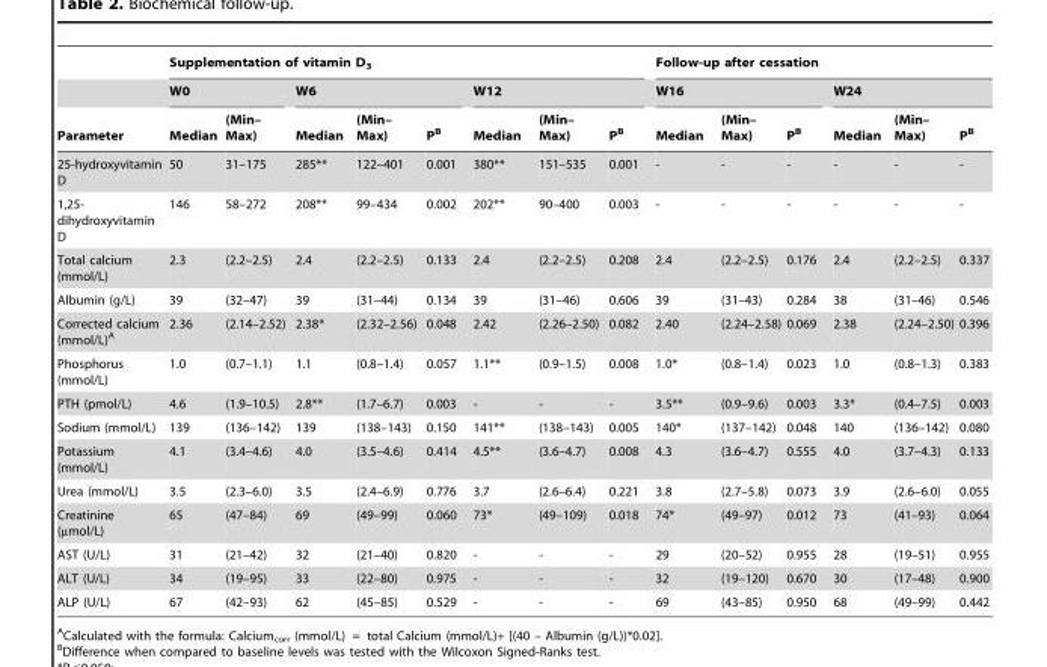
<table><thead><tr><td rowspan="3">Parameter</td><td colspan="8">Supplementation of vitamin D<sub>3</sub></td><td colspan="6">Follow-up after cessation</td></tr><tr><td colspan="2">W0</td><td colspan="3">W6</td><td colspan="3">W12</td><td colspan="3">W16</td><td colspan="3">W24</td></tr><tr><td>Median</td><td>(Min– Max)</td><td>Median</td><td>(Min– Max)</td><td>P<sup>B</sup></td><td>Median</td><td>(Min– Max)</td><td>P<sup>B</sup></td><td>Median</td><td>(Min– Max)</td><td>P<sup>B</sup></td><td>Median</td><td>(Min– Max)</td><td>P<sup>B</sup></td></tr></thead><tbody><tr><td>25-hydroxyvitamin D</td><td>50</td><td>31–175</td><td>285**</td><td>122–401</td><td>0.001</td><td>380**</td><td>151–535</td><td>0.001</td><td>-</td><td>-</td><td>-</td><td>-</td><td>-</td><td>-</td></tr><tr><td>1,25- dihydroxyvitamin D</td><td>146</td><td>58–272</td><td>208**</td><td>99–434</td><td>0.002</td><td>202**</td><td>90–400</td><td>0.003</td><td>-</td><td>-</td><td>-</td><td>-</td><td>-</td><td>-</td></tr><tr><td>Total calcium (mmol/L)</td><td>2.3</td><td>(2.2–2.5)</td><td>2.4</td><td>(2.2–2.5)</td><td>0.133</td><td>2.4</td><td>(2.2–2.5)</td><td>0.208</td><td>2.4</td><td>(2.2–2.5)</td><td>0.176</td><td>2.4</td><td>(2.2–2.5)</td><td>0.337</td></tr><tr><td>Albumin (g/L)</td><td>39</td><td>(32–47)</td><td>39</td><td>(31–44)</td><td>0.134</td><td>39</td><td>(31–46)</td><td>0.606</td><td>39</td><td>(31–43)</td><td>0.284</td><td>38</td><td>(31–46)</td><td>0.546</td></tr><tr><td>Corrected calcium (mmol/L)<sup>A</sup></td><td>2.36</td><td>(2.14–2.52)</td><td>2.38*</td><td>(2.32–2.56)</td><td>0.048</td><td>2.42</td><td>(2.26–2.50)</td><td>0.082</td><td>2.40</td><td>(2.24–2.58)</td><td>0.069</td><td>2.38</td><td>(2.24–2.50)</td><td>0.396</td></tr><tr><td>Phosphorus (mmol/L)</td><td>1.0</td><td>(0.7–1.1)</td><td>1.1</td><td>(0.8–1.4)</td><td>0.057</td><td>1.1**</td><td>(0.9–1.5)</td><td>0.008</td><td>1.0*</td><td>(0.8–1.4)</td><td>0.023</td><td>1.0</td><td>(0.8–1.3)</td><td>0.383</td></tr><tr><td>PTH (pmol/L)</td><td>4.6</td><td>(1.9–10.5)</td><td>2.8**</td><td>(1.7–6.7)</td><td>0.003</td><td>-</td><td>-</td><td>-</td><td>3.5**</td><td>(0.9–9.6)</td><td>0.003</td><td>3.3*</td><td>(0.4–7.5)</td><td>0.003</td></tr><tr><td>Sodium (mmol/L)</td><td>139</td><td>(136–142)</td><td>139</td><td>(138–143)</td><td>0.150</td><td>141**</td><td>(138–143)</td><td>0.005</td><td>140*</td><td>(137–142)</td><td>0.048</td><td>140</td><td>(136–142)</td><td>0.080</td></tr><tr><td>Potassium (mmol/L)</td><td>4.1</td><td>(3.4–4.6)</td><td>4.0</td><td>(3.5–4.6)</td><td>0.414</td><td>4.5**</td><td>(3.6–4.7)</td><td>0.008</td><td>4.3</td><td>(3.6–4.7)</td><td>0.555</td><td>4.0</td><td>(3.7–4.3)</td><td>0.133</td></tr><tr><td>Urea (mmol/L)</td><td>3.5</td><td>(2.3–6.0)</td><td>3.5</td><td>(2.4–6.9)</td><td>0.776</td><td>3.7</td><td>(2.6–6.4)</td><td>0.221</td><td>3.8</td><td>(2.7–5.8)</td><td>0.073</td><td>3.9</td><td>(2.6–6.0)</td><td>0.055</td></tr><tr><td>Creatinine (µmol/L)</td><td>65</td><td>(47–84)</td><td>69</td><td>(49–99)</td><td>0.060</td><td>73*</td><td>(49–109)</td><td>0.018</td><td>74*</td><td>(49–97)</td><td>0.012</td><td>73</td><td>(41–93)</td><td>0.064</td></tr><tr><td>AST (U/L)</td><td>31</td><td>(21–42)</td><td>32</td><td>(21–40)</td><td>0.820</td><td>-</td><td>-</td><td>-</td><td>29</td><td>(20–52)</td><td>0.955</td><td>28</td><td>(19–51)</td><td>0.955</td></tr><tr><td>ALT (U/L)</td><td>34</td><td>(19–95)</td><td>33</td><td>(22–80)</td><td>0.975</td><td>-</td><td>-</td><td>-</td><td>32</td><td>(19–120)</td><td>0.670</td><td>30</td><td>(17–48)</td><td>0.900</td></tr><tr><td>ALP (U/L)</td><td>67</td><td>(42–93)</td><td>62</td><td>(45–85)</td><td>0.529</td><td>-</td><td>-</td><td>-</td><td>69</td><td>(43–85)</td><td>0.950</td><td>68</td><td>(49–99)</td><td>0.442</td></tr></tbody></table>